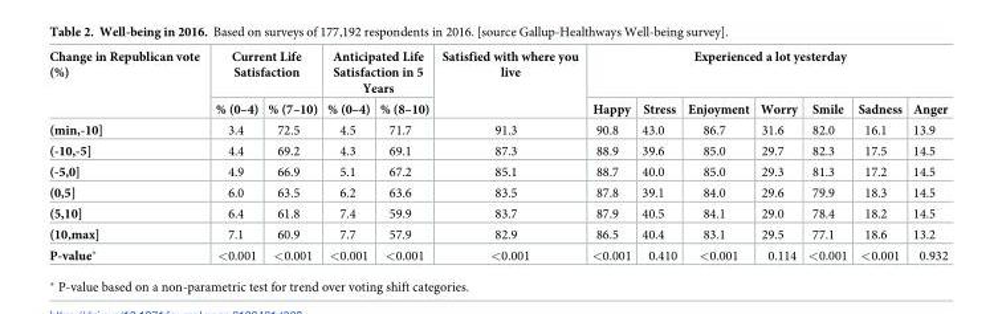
<table><thead><tr><td rowspan="2">Change in Republican vote (%)</td><td colspan="2">Current Life Satisfaction</td><td colspan="2">Anticipated Life Satisfaction in 5 Years</td><td rowspan="2">Satisfied with where you live</td><td colspan="7">Experienced a lot yesterday</td></tr><tr><td>% (0–4)</td><td>% (7–10)</td><td>% (0–4)</td><td>% (8–10)</td><td>Happy</td><td>Stress</td><td>Enjoyment</td><td>Worry</td><td>Smile</td><td>Sadness</td><td>Anger</td></tr></thead><tbody><tr><td>(min,-10]</td><td>3.4</td><td>72.5</td><td>4.5</td><td>71.7</td><td>91.3</td><td>90.8</td><td>43.0</td><td>86.7</td><td>31.6</td><td>82.0</td><td>16.1</td><td>13.9</td></tr><tr><td>(-10,-5]</td><td>4.4</td><td>69.2</td><td>4.3</td><td>69.1</td><td>87.3</td><td>88.9</td><td>39.6</td><td>85.0</td><td>29.7</td><td>82.3</td><td>17.5</td><td>14.5</td></tr><tr><td>(-5,0]</td><td>4.9</td><td>66.9</td><td>5.1</td><td>67.2</td><td>85.1</td><td>88.7</td><td>40.0</td><td>85.0</td><td>29.3</td><td>81.3</td><td>17.2</td><td>14.5</td></tr><tr><td>(0,5]</td><td>6.0</td><td>63.5</td><td>6.2</td><td>63.6</td><td>83.5</td><td>87.8</td><td>39.1</td><td>84.0</td><td>29.6</td><td>79.9</td><td>18.3</td><td>14.5</td></tr><tr><td>(5,10]</td><td>6.4</td><td>61.8</td><td>7.4</td><td>59.9</td><td>83.7</td><td>87.9</td><td>40.5</td><td>84.1</td><td>29.0</td><td>78.4</td><td>18.2</td><td>14.5</td></tr><tr><td>(10,max]</td><td>7.1</td><td>60.9</td><td>7.7</td><td>57.9</td><td>82.9</td><td>86.5</td><td>40.4</td><td>83.1</td><td>29.5</td><td>77.1</td><td>18.6</td><td>13.2</td></tr><tr><td>P-value*</td><td>&lt;0.001</td><td>&lt;0.001</td><td>&lt;0.001</td><td>&lt;0.001</td><td>&lt;0.001</td><td>&lt;0.001</td><td>0.410</td><td>&lt;0.001</td><td>0.114</td><td>&lt;0.001</td><td>&lt;0.001</td><td>0.932</td></tr></tbody></table>